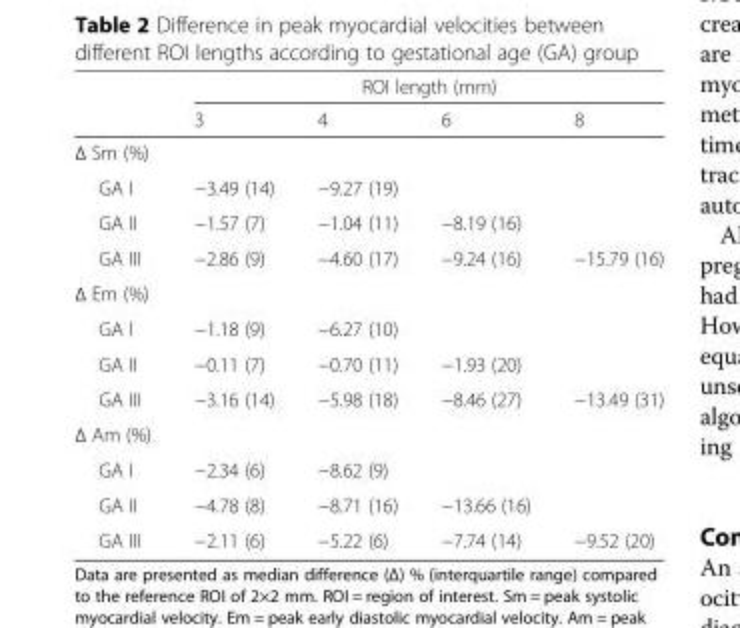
<table><thead><tr><td rowspan="2"></td><td colspan="4">ROI length (mm)</td></tr><tr><td>3</td><td>4</td><td>6</td><td>8</td></tr></thead><tbody><tr><td colspan="5">Δ Sm (%)</td></tr><tr><td>GA I</td><td>−3.49 (14)</td><td>−9.27 (19)</td><td></td><td></td></tr><tr><td>GA II</td><td>−1.57 (7)</td><td>−1.04 (11)</td><td>−8.19 (16)</td><td></td></tr><tr><td>GA III</td><td>−2.86 (9)</td><td>−4.60 (17)</td><td>−9.24 (16)</td><td>−15.79 (16)</td></tr><tr><td colspan="5">Δ Em (%)</td></tr><tr><td>GA I</td><td>−1.18 (9)</td><td>−6.27 (10)</td><td></td><td></td></tr><tr><td>GA II</td><td>−0.11 (7)</td><td>−0.70 (11)</td><td>−1.93 (20)</td><td></td></tr><tr><td>GA III</td><td>−3.16 (14)</td><td>−5.98 (18)</td><td>−8.46 (27)</td><td>−13.49 (31)</td></tr><tr><td colspan="5">Δ Am (%)</td></tr><tr><td>GA I</td><td>−2.34 (6)</td><td>−8.62 (9)</td><td></td><td></td></tr><tr><td>GA II</td><td>−4.78 (8)</td><td>−8.71 (16)</td><td>−13.66 (16)</td><td></td></tr><tr><td>GA III</td><td>−2.11 (6)</td><td>−5.22 (6)</td><td>−7.74 (14)</td><td>−9.52 (20)</td></tr></tbody></table>